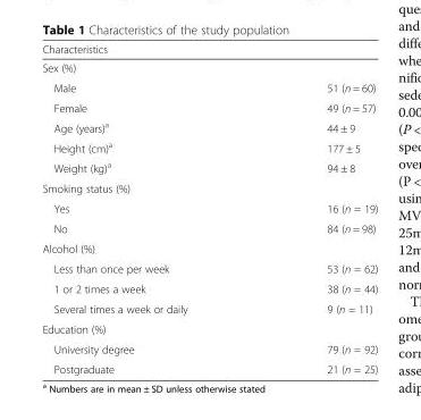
<table><thead><tr><td rowspan="2" colspan="2">Characteristics Sex (%)</td></tr><tr></tr><tr><td>Male</td><td>51 (n = 60)</td></tr></thead><tbody><tr><td>Female</td><td>49 (n = 57)</td></tr><tr><td>Age (years)<sup>a</sup></td><td>44 ± 9</td></tr><tr><td>Height (cm)<sup>a</sup></td><td>177 ± 5</td></tr><tr><td>Weight (kg)<sup>a</sup></td><td>94 ± 8</td></tr><tr><td colspan="2">Smoking status (%)</td></tr><tr><td>Yes</td><td>16 (n = 19)</td></tr><tr><td>No</td><td>84 (n = 98)</td></tr><tr><td colspan="2">Alcohol (%)</td></tr><tr><td>Less than once per week</td><td>53 (n = 62)</td></tr><tr><td>1 or 2 times a week</td><td>38 (n = 44)</td></tr><tr><td>Several times a week or daily</td><td>9 (n = 11)</td></tr><tr><td colspan="2">Education (%)</td></tr><tr><td>University degree</td><td>79 (n = 92)</td></tr><tr><td>Postgraduate</td><td>21 (n = 25)</td></tr></tbody></table>